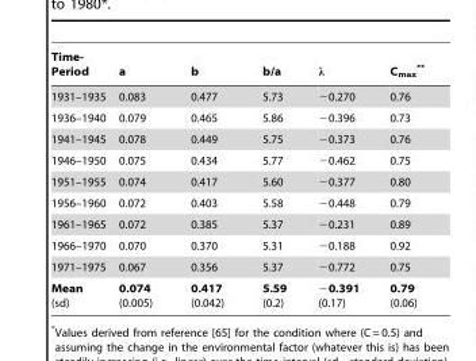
<table><thead><tr><td>Time- Period</td><td>a</td><td>b</td><td>b/a</td><td>λ</td><td>C<sub>max</sub> **</td></tr></thead><tbody><tr><td>1931–1935</td><td>0.083</td><td>0.477</td><td>5.73</td><td>−0.270</td><td>0.76</td></tr><tr><td>1936–1940</td><td>0.079</td><td>0.465</td><td>5.86</td><td>−0.396</td><td>0.73</td></tr><tr><td>1941–1945</td><td>0.078</td><td>0.449</td><td>5.75</td><td>−0.373</td><td>0.76</td></tr><tr><td>1946–1950</td><td>0.075</td><td>0.434</td><td>5.77</td><td>−0.462</td><td>0.75</td></tr><tr><td>1951–1955</td><td>0.074</td><td>0.417</td><td>5.60</td><td>−0.377</td><td>0.80</td></tr><tr><td>1956–1960</td><td>0.072</td><td>0.403</td><td>5.58</td><td>−0.448</td><td>0.79</td></tr><tr><td>1961–1965</td><td>0.072</td><td>0.385</td><td>5.37</td><td>−0.231</td><td>0.89</td></tr><tr><td>1966–1970</td><td>0.070</td><td>0.370</td><td>5.31</td><td>−0.188</td><td>0.92</td></tr><tr><td>1971–1975</td><td>0.067</td><td>0.356</td><td>5.37</td><td>−0.772</td><td>0.75</td></tr><tr><td>Mean (sd)</td><td>0.074 (0.005)</td><td>0.417 (0.042)</td><td>5.59 (0.2)</td><td>−0.391 (0.17)</td><td>0.79 (0.06)</td></tr></tbody></table>